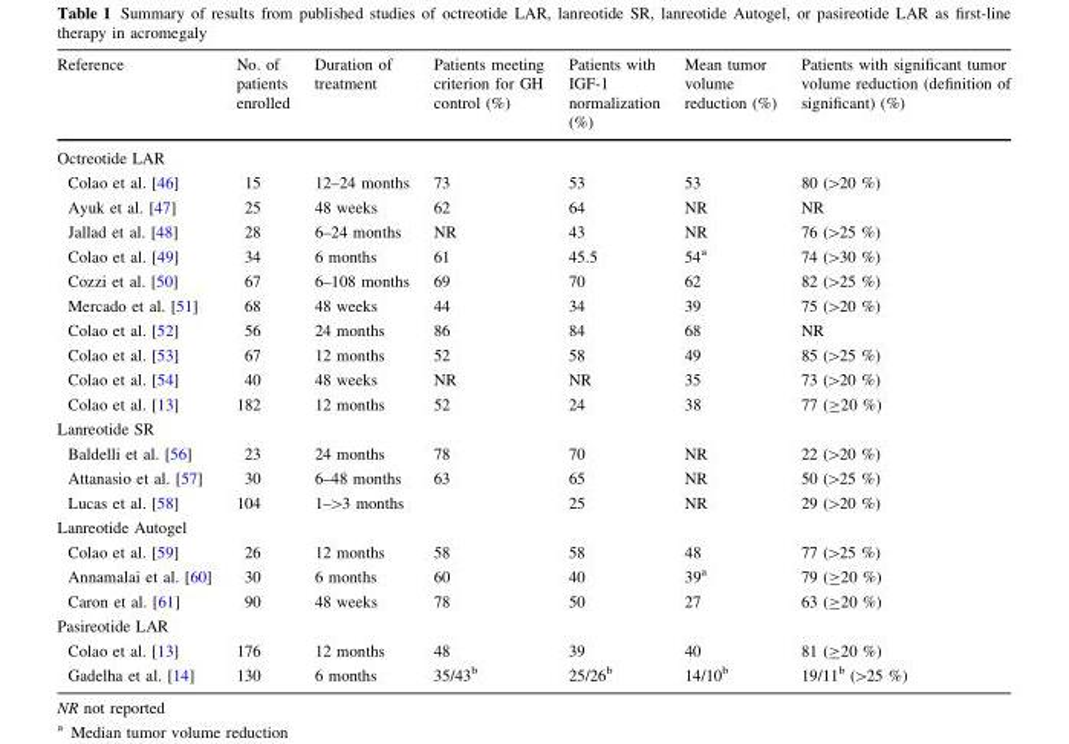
<table><thead><tr><td>Reference</td><td>No. of patients enrolled</td><td>Duration of treatment</td><td>Patients meeting criterion for GH control (%)</td><td>Patients with IGF-1 normalization (%)</td><td>Mean tumor volume reduction (%)</td><td>Patients with significant tumor volume reduction (definition of significant) (%)</td></tr></thead><tbody><tr><td colspan="7">Octreotide LAR</td></tr><tr><td>Colao et al. [46]</td><td>15</td><td>12–24 months</td><td>73</td><td>53</td><td>53</td><td>80 (&gt;20 %)</td></tr><tr><td>Ayuk et al. [47]</td><td>25</td><td>48 weeks</td><td>62</td><td>64</td><td>NR</td><td>NR</td></tr><tr><td>Jallad et al. [48]</td><td>28</td><td>6–24 months</td><td>NR</td><td>43</td><td>NR</td><td>76 (&gt;25 %)</td></tr><tr><td>Colao et al. [49]</td><td>34</td><td>6 months</td><td>61</td><td>45.5</td><td>54<sup>a</sup></td><td>74 (&gt;30 %)</td></tr><tr><td>Cozzi et al. [50]</td><td>67</td><td>6–108 months</td><td>69</td><td>70</td><td>62</td><td>82 (&gt;25 %)</td></tr><tr><td>Mercado et al. [51]</td><td>68</td><td>48 weeks</td><td>44</td><td>34</td><td>39</td><td>75 (&gt;20 %)</td></tr><tr><td>Colao et al. [52]</td><td>56</td><td>24 months</td><td>86</td><td>84</td><td>68</td><td>NR</td></tr><tr><td>Colao et al. [53]</td><td>67</td><td>12 months</td><td>52</td><td>58</td><td>49</td><td>85 (&gt;25 %)</td></tr><tr><td>Colao et al. [54]</td><td>40</td><td>48 weeks</td><td>NR</td><td>NR</td><td>35</td><td>73 (&gt;20 %)</td></tr><tr><td>Colao et al. [13]</td><td>182</td><td>12 months</td><td>52</td><td>24</td><td>38</td><td>77 (≥20 %)</td></tr><tr><td colspan="7">Lanreotide SR</td></tr><tr><td>Baldelli et al. [56]</td><td>23</td><td>24 months</td><td>78</td><td>70</td><td>NR</td><td>22 (&gt;20 %)</td></tr><tr><td>Attanasio et al. [57]</td><td>30</td><td>6–48 months</td><td>63</td><td>65</td><td>NR</td><td>50 (&gt;25 %)</td></tr><tr><td>Lucas et al. [58]</td><td>104</td><td>1–&gt;3 months</td><td></td><td>25</td><td>NR</td><td>29 (&gt;20 %)</td></tr><tr><td colspan="7">Lanreotide Autogel</td></tr><tr><td>Colao et al. [59]</td><td>26</td><td>12 months</td><td>58</td><td>58</td><td>48</td><td>77 (&gt;25 %)</td></tr><tr><td>Annamalai et al. [60]</td><td>30</td><td>6 months</td><td>60</td><td>40</td><td>39<sup>a</sup></td><td>79 (≥20 %)</td></tr><tr><td>Caron et al. [61]</td><td>90</td><td>48 weeks</td><td>78</td><td>50</td><td>27</td><td>63 (≥20 %)</td></tr><tr><td colspan="7">Pasireotide LAR</td></tr><tr><td>Colao et al. [13]</td><td>176</td><td>12 months</td><td>48</td><td>39</td><td>40</td><td>81 (≥20 %)</td></tr><tr><td>Gadelha et al. [14]</td><td>130</td><td>6 months</td><td>35/43<sup>b</sup></td><td>25/26<sup>b</sup></td><td>14/10<sup>b</sup></td><td>19/11<sup>b</sup> (&gt;25 %)</td></tr></tbody></table>